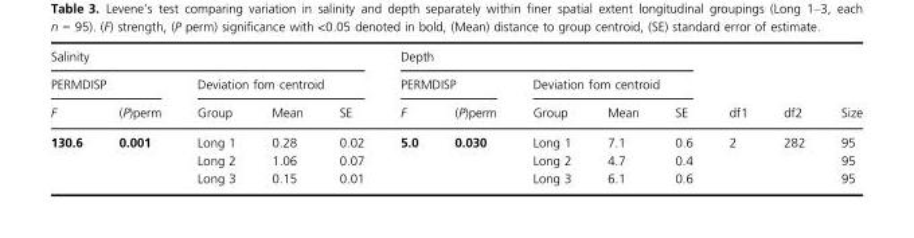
<table><thead><tr><td colspan="5">Salinity</td><td colspan="5">Depth</td><td rowspan="3">df1</td><td rowspan="3">df2</td><td rowspan="3">Size</td></tr><tr><td colspan="2">PERMDISP</td><td colspan="3">Deviation fom centroid</td><td colspan="2">PERMDISP</td><td colspan="3">Deviation fom centroid</td></tr><tr><td>F</td><td>(P)perm</td><td>Group</td><td>Mean</td><td>SE</td><td>F</td><td>(P)perm</td><td>Group</td><td>Mean</td><td>SE</td></tr></thead><tbody><tr><td rowspan="3">130.6</td><td>0.001</td><td>Long 1</td><td>0.28</td><td>0.02</td><td>5.0</td><td>0.030</td><td>Long 1</td><td>7.1</td><td>0.6</td><td>2</td><td>282</td><td>95</td></tr><tr><td></td><td>Long 2</td><td>1.06</td><td>0.07</td><td></td><td></td><td>Long 2</td><td>4.7</td><td>0.4</td><td></td><td></td><td>95</td></tr><tr><td></td><td>Long 3</td><td>0.15</td><td>0.01</td><td></td><td></td><td>Long 3</td><td>6.1</td><td>0.6</td><td></td><td></td><td>95</td></tr></tbody></table>